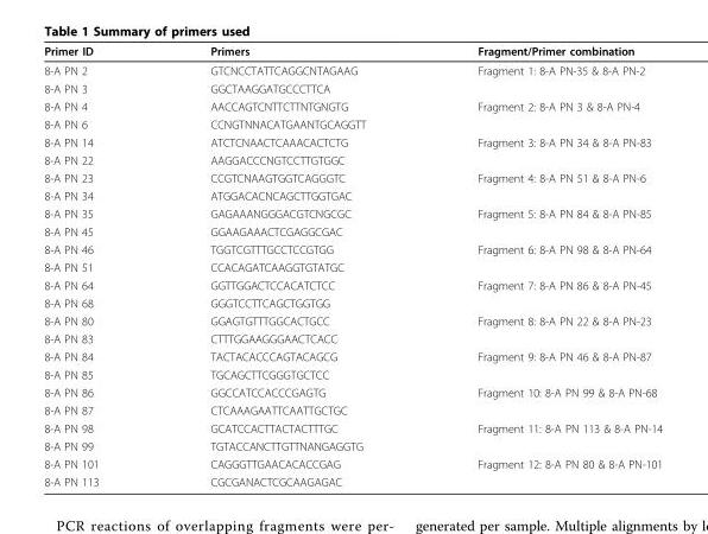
<table><thead><tr><td>Primer ID</td><td>Primers</td><td>Fragment/Primer combination</td></tr></thead><tbody><tr><td>8-A PN 2</td><td>GTCNCCTATTCAGGCNTAGAAG</td><td>Fragment 1: 8-A PN-35 &amp; 8-A PN-2</td></tr><tr><td>8-A PN 3</td><td>GGCTAAGGATGCCCTTCA</td><td></td></tr><tr><td>8-A PN 4</td><td>AACCAGTCNTTCTTNTGNGTG</td><td>Fragment 2: 8-A PN 3 &amp; 8-A PN-4</td></tr><tr><td>8-A PN 6</td><td>CCNGTNNACATGAANTGCAGGTT</td><td></td></tr><tr><td>8-A PN 14</td><td>ATCTCNAACTCAAACACTCTG</td><td>Fragment 3: 8-A PN 34 &amp; 8-A PN-83</td></tr><tr><td>8-A PN 22</td><td>AAGGACCCNGTCCTTGTGGC</td><td></td></tr><tr><td>8-A PN 23</td><td>CCGTCNAAGTGGTCAGGGTC</td><td>Fragment 4: 8-A PN 51 &amp; 8-A PN-6</td></tr><tr><td>8-A PN 34</td><td>ATGGACACNCAGCTTGGTGAC</td><td></td></tr><tr><td>8-A PN 35</td><td>GAGAAANGGGACGTCNGCGC</td><td>Fragment 5: 8-A PN 84 &amp; 8-A PN-85</td></tr><tr><td>8-A PN 45</td><td>GGAAGAAACTCGAGGCGAC</td><td></td></tr><tr><td>8-A PN 46</td><td>TGGTCGTTTGCCTCCGTGG</td><td>Fragment 6: 8-A PN 98 &amp; 8-A PN-64</td></tr><tr><td>8-A PN 51</td><td>CCACAGATCAAGGTGTATGC</td><td></td></tr><tr><td>8-A PN 64</td><td>GGTTGGACTCCACATCTCC</td><td>Fragment 7: 8-A PN 86 &amp; 8-A PN-45</td></tr><tr><td>8-A PN 68</td><td>GGGTCCTTCAGCTGGTGG</td><td></td></tr><tr><td>8-A PN 80</td><td>GGAGTGTTTGGCACTGCC</td><td>Fragment 8: 8-A PN 22 &amp; 8-A PN-23</td></tr><tr><td>8-A PN 83</td><td>CTTTGGAAGGGAACTCACC</td><td></td></tr><tr><td>8-A PN 84</td><td>TACTACACCCAGTACAGCG</td><td>Fragment 9: 8-A PN 46 &amp; 8-A PN-87</td></tr><tr><td>8-A PN 85</td><td>TGCAGCTTCGGGTGCTCC</td><td></td></tr><tr><td>8-A PN 86</td><td>GGCCATCCACCCGAGTG</td><td>Fragment 10: 8-A PN 99 &amp; 8-A PN-68</td></tr><tr><td>8-A PN 87</td><td>CTCAAAGAATTCAATTGCTGC</td><td></td></tr><tr><td>8-A PN 98</td><td>GCATCCACTTACTACTTTGC</td><td>Fragment 11: 8-A PN 113 &amp; 8-A PN-14</td></tr><tr><td>8-A PN 99</td><td>TGTACCANCTTGTTNANGAGGTG</td><td></td></tr><tr><td>8-A PN 101</td><td>CAGGGTTGAACACACCGAG</td><td>Fragment 12: 8-A PN 80 &amp; 8-A PN-101</td></tr><tr><td>8-A PN 113</td><td>CGCGANACTCGCAAGAGAC</td><td></td></tr></tbody></table>